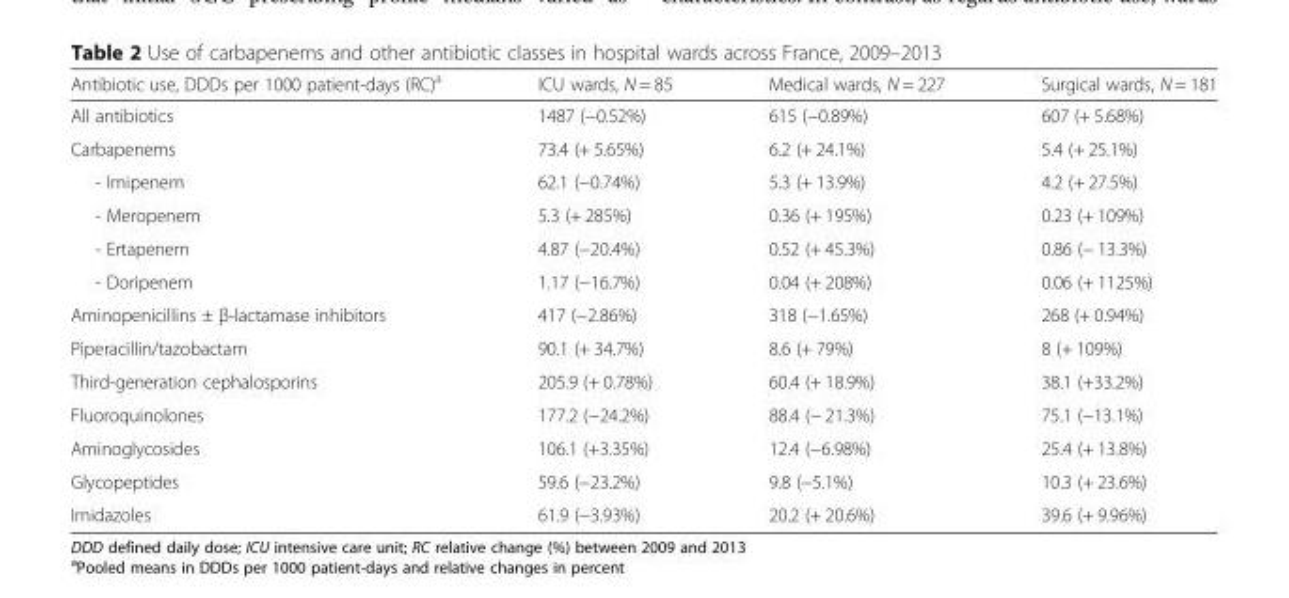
<table><thead><tr><td>Antibiotic use, DDDs per 1000 patient-days (RC)<sup>a</sup></td><td>ICU wards, N = 85</td><td>Medical wards, N = 227</td><td>Surgical wards, N = 181</td></tr></thead><tbody><tr><td>All antibiotics</td><td>1487 (−0.52%)</td><td>615 (−0.89%)</td><td>607 (+ 5.68%)</td></tr><tr><td>Carbapenems</td><td>73.4 (+ 5.65%)</td><td>6.2 (+ 24.1%)</td><td>5.4 (+ 25.1%)</td></tr><tr><td>- Imipenem</td><td>62.1 (−0.74%)</td><td>5.3 (+ 13.9%)</td><td>4.2 (+ 27.5%)</td></tr><tr><td>- Meropenem</td><td>5.3 (+ 285%)</td><td>0.36 (+ 195%)</td><td>0.23 (+ 109%)</td></tr><tr><td>- Ertapenem</td><td>4.87 (−20.4%)</td><td>0.52 (+ 45.3%)</td><td>0.86 (− 13.3%)</td></tr><tr><td>- Doripenem</td><td>1.17 (−16.7%)</td><td>0.04 (+ 208%)</td><td>0.06 (+ 1125%)</td></tr><tr><td>Aminopenicillins ± β-lactamase inhibitors</td><td>417 (−2.86%)</td><td>318 (−1.65%)</td><td>268 (+ 0.94%)</td></tr><tr><td>Piperacillin/tazobactam</td><td>90.1 (+ 34.7%)</td><td>8.6 (+ 79%)</td><td>8 (+ 109%)</td></tr><tr><td>Third-generation cephalosporins</td><td>205.9 (+ 0.78%)</td><td>60.4 (+ 18.9%)</td><td>38.1 (+33.2%)</td></tr><tr><td>Fluoroquinolones</td><td>177.2 (−24.2%)</td><td>88.4 (− 21.3%)</td><td>75.1 (−13.1%)</td></tr><tr><td>Aminoglycosides</td><td>106.1 (+3.35%)</td><td>12.4 (−6.98%)</td><td>25.4 (+ 13.8%)</td></tr><tr><td>Glycopeptides</td><td>59.6 (−23.2%)</td><td>9.8 (−5.1%)</td><td>10.3 (+ 23.6%)</td></tr><tr><td>Imidazoles</td><td>61.9 (−3.93%)</td><td>20.2 (+ 20.6%)</td><td>39.6 (+ 9.96%)</td></tr></tbody></table>